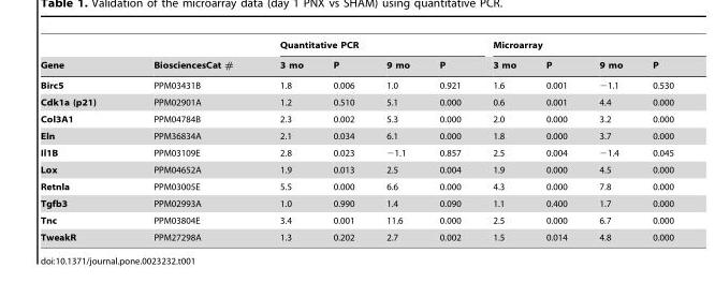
<table><thead><tr><td rowspan="2">Gene</td><td rowspan="2">BiosciencesCat #</td><td colspan="4">Quantitative PCR</td><td colspan="4">Microarray</td></tr><tr><td>3 mo</td><td>P</td><td>9 mo</td><td>P</td><td>3 mo</td><td>P</td><td>9 mo</td><td>P</td></tr></thead><tbody><tr><td>Birc5</td><td>PPM03431B</td><td>1.8</td><td>0.006</td><td>1.0</td><td>0.921</td><td>1.6</td><td>0.001</td><td>−1.1</td><td>0.530</td></tr><tr><td>Cdk1a (p21)</td><td>PPM02901A</td><td>1.2</td><td>0.510</td><td>5.1</td><td>0.000</td><td>0.6</td><td>0.001</td><td>4.4</td><td>0.000</td></tr><tr><td>Col3A1</td><td>PPM04784B</td><td>2.3</td><td>0.002</td><td>5.3</td><td>0.000</td><td>2.0</td><td>0.000</td><td>3.2</td><td>0.000</td></tr><tr><td>Eln</td><td>PPM36834A</td><td>2.1</td><td>0.034</td><td>6.1</td><td>0.000</td><td>1.8</td><td>0.000</td><td>3.7</td><td>0.000</td></tr><tr><td>Il1B</td><td>PPM03109E</td><td>2.8</td><td>0.023</td><td>−1.1</td><td>0.857</td><td>2.5</td><td>0.004</td><td>−1.4</td><td>0.045</td></tr><tr><td>Lox</td><td>PPM04652A</td><td>1.9</td><td>0.013</td><td>2.5</td><td>0.004</td><td>1.9</td><td>0.000</td><td>4.5</td><td>0.000</td></tr><tr><td>Retnla</td><td>PPM03005E</td><td>5.5</td><td>0.000</td><td>6.6</td><td>0.000</td><td>4.3</td><td>0.000</td><td>7.8</td><td>0.000</td></tr><tr><td>Tgfb3</td><td>PPM02993A</td><td>1.0</td><td>0.990</td><td>1.4</td><td>0.090</td><td>1.1</td><td>0.400</td><td>1.7</td><td>0.000</td></tr><tr><td>Tnc</td><td>PPM03804E</td><td>3.4</td><td>0.001</td><td>11.6</td><td>0.000</td><td>2.5</td><td>0.000</td><td>6.7</td><td>0.000</td></tr><tr><td>TweakR</td><td>PPM27298A</td><td>1.3</td><td>0.202</td><td>2.7</td><td>0.002</td><td>1.5</td><td>0.014</td><td>4.8</td><td>0.000</td></tr></tbody></table>